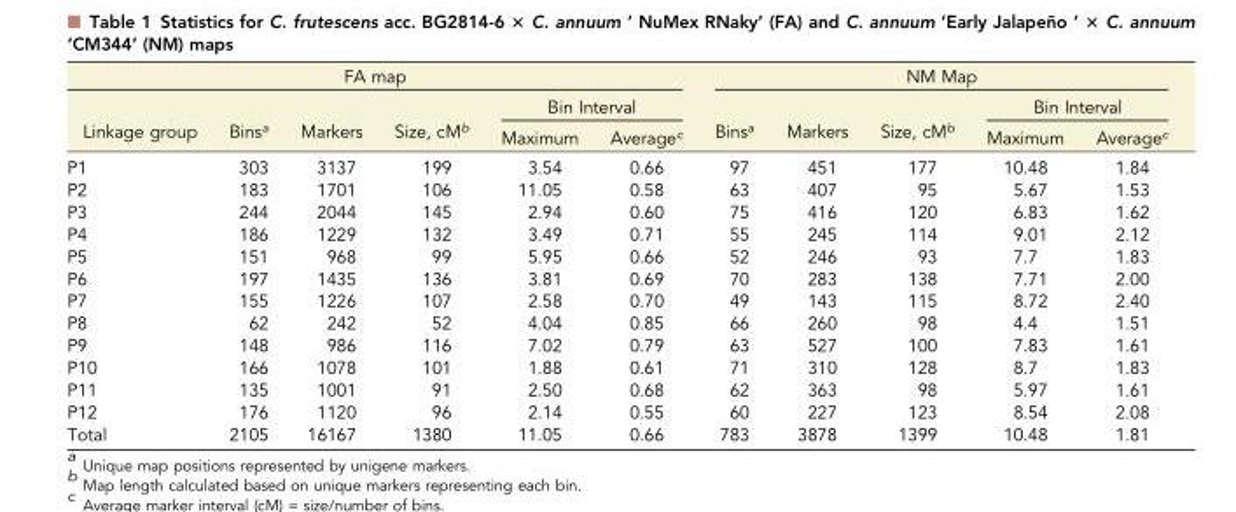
<table><thead><tr><td colspan="6">FA map</td><td colspan="5">NM Map</td></tr><tr><td rowspan="2">Linkage group</td><td rowspan="2">Bins<sup>a</sup></td><td rowspan="2">Markers</td><td rowspan="2">Size, cM<sup>b</sup></td><td colspan="2">Bin Interval</td><td rowspan="2">Bins<sup>a</sup></td><td rowspan="2">Markers</td><td rowspan="2">Size, cM<sup>b</sup></td><td colspan="2">Bin Interval</td></tr><tr><td>Maximum</td><td>Average<sup>c</sup></td><td>Maximum</td><td>Average<sup>c</sup></td></tr></thead><tbody><tr><td>P1</td><td>303</td><td>3137</td><td>199</td><td>3.54</td><td>0.66</td><td>97</td><td>451</td><td>177</td><td>10.48</td><td>1.84</td></tr><tr><td>P2</td><td>183</td><td>1701</td><td>106</td><td>11.05</td><td>0.58</td><td>63</td><td>407</td><td>95</td><td>5.67</td><td>1.53</td></tr><tr><td>P3</td><td>244</td><td>2044</td><td>145</td><td>2.94</td><td>0.60</td><td>75</td><td>416</td><td>120</td><td>6.83</td><td>1.62</td></tr><tr><td>P4</td><td>186</td><td>1229</td><td>132</td><td>3.49</td><td>0.71</td><td>55</td><td>245</td><td>114</td><td>9.01</td><td>2.12</td></tr><tr><td>P5</td><td>151</td><td>968</td><td>99</td><td>5.95</td><td>0.66</td><td>52</td><td>246</td><td>93</td><td>7.7</td><td>1.83</td></tr><tr><td>P6</td><td>197</td><td>1435</td><td>136</td><td>3.81</td><td>0.69</td><td>70</td><td>283</td><td>138</td><td>7.71</td><td>2.00</td></tr><tr><td>P7</td><td>155</td><td>1226</td><td>107</td><td>2.58</td><td>0.70</td><td>49</td><td>143</td><td>115</td><td>8.72</td><td>2.40</td></tr><tr><td>P8</td><td>62</td><td>242</td><td>52</td><td>4.04</td><td>0.85</td><td>66</td><td>260</td><td>98</td><td>4.4</td><td>1.51</td></tr><tr><td>P9</td><td>148</td><td>986</td><td>116</td><td>7.02</td><td>0.79</td><td>63</td><td>527</td><td>100</td><td>7.83</td><td>1.61</td></tr><tr><td>P10</td><td>166</td><td>1078</td><td>101</td><td>1.88</td><td>0.61</td><td>71</td><td>310</td><td>128</td><td>8.7</td><td>1.83</td></tr><tr><td>P11</td><td>135</td><td>1001</td><td>91</td><td>2.50</td><td>0.68</td><td>62</td><td>363</td><td>98</td><td>5.97</td><td>1.61</td></tr><tr><td>P12</td><td>176</td><td>1120</td><td>96</td><td>2.14</td><td>0.55</td><td>60</td><td>227</td><td>123</td><td>8.54</td><td>2.08</td></tr><tr><td>Total</td><td>2105</td><td>16167</td><td>1380</td><td>11.05</td><td>0.66</td><td>783</td><td>3878</td><td>1399</td><td>10.48</td><td>1.81</td></tr></tbody></table>